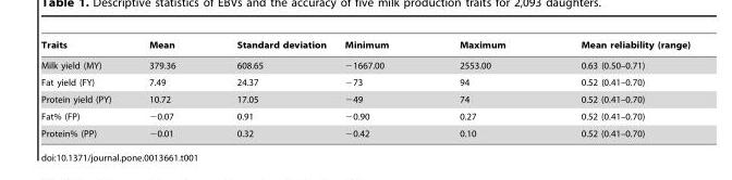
<table><thead><tr><td>Traits</td><td>Mean</td><td>Standard deviation</td><td>Minimum</td><td>Maximum</td><td>Mean reliability (range)</td></tr></thead><tbody><tr><td>Milk yield (MY)</td><td>379.36</td><td>608.65</td><td>−1667.00</td><td>2553.00</td><td>0.63 (0.50–0.71)</td></tr><tr><td>Fat yield (FY)</td><td>7.49</td><td>24.37</td><td>−73</td><td>94</td><td>0.52 (0.41–0.70)</td></tr><tr><td>Protein yield (PY)</td><td>10.72</td><td>17.05</td><td>−49</td><td>74</td><td>0.52 (0.41–0.70)</td></tr><tr><td>Fat% (FP)</td><td>−0.07</td><td>0.91</td><td>−0.90</td><td>0.27</td><td>0.52 (0.41–0.70)</td></tr><tr><td>Protein% (PP)</td><td>−0.01</td><td>0.32</td><td>−0.42</td><td>0.10</td><td>0.52 (0.41–0.70)</td></tr></tbody></table>